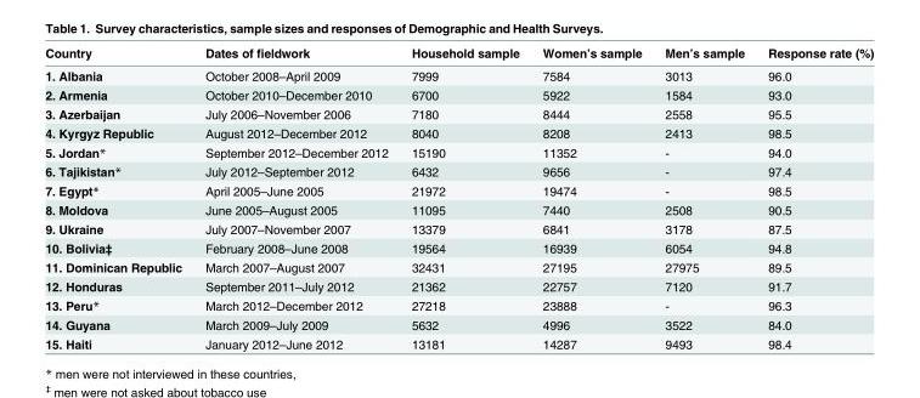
<table><thead><tr><td>Country</td><td>Dates of fieldwork</td><td>Household sample</td><td>Women’s sample</td><td>Men’s sample</td><td>Response rate (%)</td></tr></thead><tbody><tr><td>1. Albania</td><td>October 2008–April 2009</td><td>7999</td><td>7584</td><td>3013</td><td>96.0</td></tr><tr><td>2. Armenia</td><td>October 2010–December 2010</td><td>6700</td><td>5922</td><td>1584</td><td>93.0</td></tr><tr><td>3. Azerbaijan</td><td>July 2006–November 2006</td><td>7180</td><td>8444</td><td>2558</td><td>95.5</td></tr><tr><td>4. Kyrgyz Republic</td><td>August 2012–December 2012</td><td>8040</td><td>8208</td><td>2413</td><td>98.5</td></tr><tr><td>5. Jordan*</td><td>September 2012–December 2012</td><td>15190</td><td>11352</td><td>-</td><td>94.0</td></tr><tr><td>6. Tajikistan*</td><td>July 2012–September 2012</td><td>6432</td><td>9656</td><td>-</td><td>97.4</td></tr><tr><td>7. Egypt*</td><td>April 2005–June 2005</td><td>21972</td><td>19474</td><td>-</td><td>98.5</td></tr><tr><td>8. Moldova</td><td>June 2005–August 2005</td><td>11095</td><td>7440</td><td>2508</td><td>90.5</td></tr><tr><td>9. Ukraine</td><td>July 2007–November 2007</td><td>13379</td><td>6841</td><td>3178</td><td>87.5</td></tr><tr><td>10. Bolivia‡</td><td>February 2008–June 2008</td><td>19564</td><td>16939</td><td>6054</td><td>94.8</td></tr><tr><td>11. Dominican Republic</td><td>March 2007–August 2007</td><td>32431</td><td>27195</td><td>27975</td><td>89.5</td></tr><tr><td>12. Honduras</td><td>September 2011–July 2012</td><td>21362</td><td>22757</td><td>7120</td><td>91.7</td></tr><tr><td>13. Peru*</td><td>March 2012–December 2012</td><td>27218</td><td>23888</td><td>-</td><td>96.3</td></tr><tr><td>14. Guyana</td><td>March 2009–July 2009</td><td>5632</td><td>4996</td><td>3522</td><td>84.0</td></tr><tr><td>15. Haiti</td><td>January 2012–June 2012</td><td>13181</td><td>14287</td><td>9493</td><td>98.4</td></tr></tbody></table>